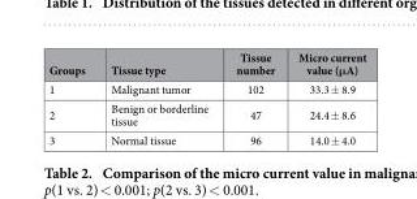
<table><thead><tr><td>Groups</td><td>Tissue type</td><td>Tissue number</td><td>Micro current value (μA)</td></tr></thead><tbody><tr><td>1</td><td>Malignant tumor</td><td>102</td><td>33.3 ± 8.9</td></tr><tr><td>2</td><td>Benign or borderline tissue</td><td>47</td><td>24.4 ± 8.6</td></tr><tr><td>3</td><td>Normal tissue</td><td>96</td><td>14.0 ± 4.0</td></tr></tbody></table>